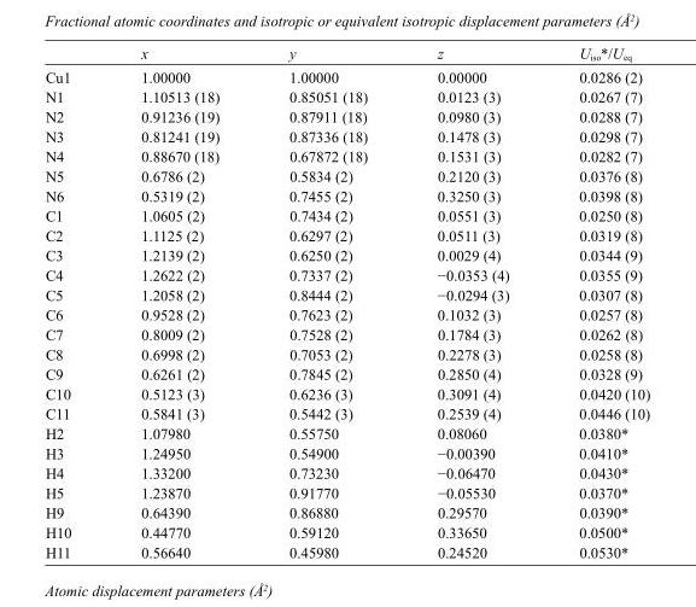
<table><thead><tr><td></td><td>x</td><td>y</td><td>z</td><td>U<sub>iso</sub>*/U<sub>eq</sub></td></tr></thead><tbody><tr><td>Cu1</td><td>1.00000</td><td>1.00000</td><td>0.00000</td><td>0.0286 (2)</td></tr><tr><td>N1</td><td>1.10513 (18)</td><td>0.85051 (18)</td><td>0.0123 (3)</td><td>0.0267 (7)</td></tr><tr><td>N2</td><td>0.91236 (19)</td><td>0.87911 (18)</td><td>0.0980 (3)</td><td>0.0288 (7)</td></tr><tr><td>N3</td><td>0.81241 (19)</td><td>0.87336 (18)</td><td>0.1478 (3)</td><td>0.0298 (7)</td></tr><tr><td>N4</td><td>0.88670 (18)</td><td>0.67872 (18)</td><td>0.1531 (3)</td><td>0.0282 (7)</td></tr><tr><td>N5</td><td>0.6786 (2)</td><td>0.5834 (2)</td><td>0.2120 (3)</td><td>0.0376 (8)</td></tr><tr><td>N6</td><td>0.5319 (2)</td><td>0.7455 (2)</td><td>0.3250 (3)</td><td>0.0398 (8)</td></tr><tr><td>C1</td><td>1.0605 (2)</td><td>0.7434 (2)</td><td>0.0551 (3)</td><td>0.0250 (8)</td></tr><tr><td>C2</td><td>1.1125 (2)</td><td>0.6297 (2)</td><td>0.0511 (3)</td><td>0.0319 (8)</td></tr><tr><td>C3</td><td>1.2139 (2)</td><td>0.6250 (2)</td><td>0.0029 (4)</td><td>0.0344 (9)</td></tr><tr><td>C4</td><td>1.2622 (2)</td><td>0.7337 (2)</td><td>−0.0353 (4)</td><td>0.0355 (9)</td></tr><tr><td>C5</td><td>1.2058 (2)</td><td>0.8444 (2)</td><td>−0.0294 (3)</td><td>0.0307 (8)</td></tr><tr><td>C6</td><td>0.9528 (2)</td><td>0.7623 (2)</td><td>0.1032 (3)</td><td>0.0257 (8)</td></tr><tr><td>C7</td><td>0.8009 (2)</td><td>0.7528 (2)</td><td>0.1784 (3)</td><td>0.0262 (8)</td></tr><tr><td>C8</td><td>0.6998 (2)</td><td>0.7053 (2)</td><td>0.2278 (3)</td><td>0.0258 (8)</td></tr><tr><td>C9</td><td>0.6261 (2)</td><td>0.7845 (2)</td><td>0.2850 (4)</td><td>0.0328 (9)</td></tr><tr><td>C10</td><td>0.5123 (3)</td><td>0.6236 (3)</td><td>0.3091 (4)</td><td>0.0420 (10)</td></tr><tr><td>C11</td><td>0.5841 (3)</td><td>0.5442 (3)</td><td>0.2539 (4)</td><td>0.0446 (10)</td></tr><tr><td>H2</td><td>1.07980</td><td>0.55750</td><td>0.08060</td><td>0.0380*</td></tr><tr><td>H3</td><td>1.24950</td><td>0.54900</td><td>−0.00390</td><td>0.0410*</td></tr><tr><td>H4</td><td>1.33200</td><td>0.73230</td><td>−0.06470</td><td>0.0430*</td></tr><tr><td>H5</td><td>1.23870</td><td>0.91770</td><td>−0.05530</td><td>0.0370*</td></tr><tr><td>H9</td><td>0.64390</td><td>0.86880</td><td>0.29570</td><td>0.0390*</td></tr><tr><td>H10</td><td>0.44770</td><td>0.59120</td><td>0.33650</td><td>0.0500*</td></tr><tr><td>H11</td><td>0.56640</td><td>0.45980</td><td>0.24520</td><td>0.0530*</td></tr></tbody></table>